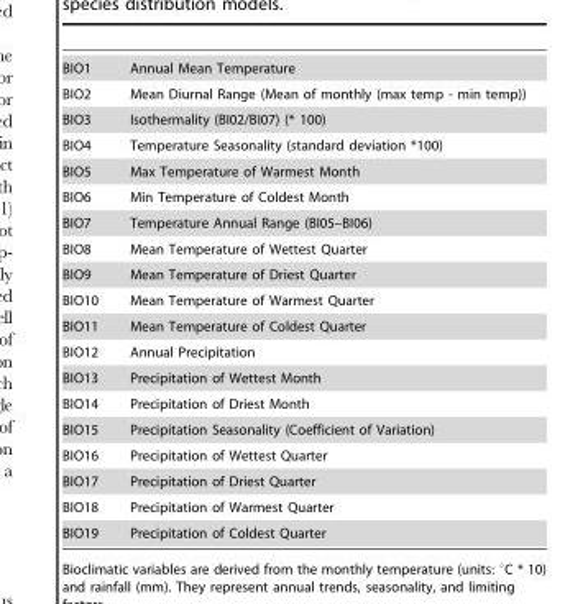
<table><tbody><tr><td>BIO1</td><td>Annual Mean Temperature</td></tr><tr><td>BIO2</td><td>Mean Diurnal Range (Mean of monthly (max temp - min temp))</td></tr><tr><td>BIO3</td><td>Isothermality (BI02/BI07) (* 100)</td></tr><tr><td>BIO4</td><td>Temperature Seasonality (standard deviation *100)</td></tr><tr><td>BIO5</td><td>Max Temperature of Warmest Month</td></tr><tr><td>BIO6</td><td>Min Temperature of Coldest Month</td></tr><tr><td>BIO7</td><td>Temperature Annual Range (BI05–BI06)</td></tr><tr><td>BIO8</td><td>Mean Temperature of Wettest Quarter</td></tr><tr><td>BIO9</td><td>Mean Temperature of Driest Quarter</td></tr><tr><td>BIO10</td><td>Mean Temperature of Warmest Quarter</td></tr><tr><td>BIO11</td><td>Mean Temperature of Coldest Quarter</td></tr><tr><td>BIO12</td><td>Annual Precipitation</td></tr><tr><td>BIO13</td><td>Precipitation of Wettest Month</td></tr><tr><td>BIO14</td><td>Precipitation of Driest Month</td></tr><tr><td>BIO15</td><td>Precipitation Seasonality (Coefficient of Variation)</td></tr><tr><td>BIO16</td><td>Precipitation of Wettest Quarter</td></tr><tr><td>BIO17</td><td>Precipitation of Driest Quarter</td></tr><tr><td>BIO18</td><td>Precipitation of Warmest Quarter</td></tr><tr><td>BIO19</td><td>Precipitation of Coldest Quarter</td></tr></tbody></table>